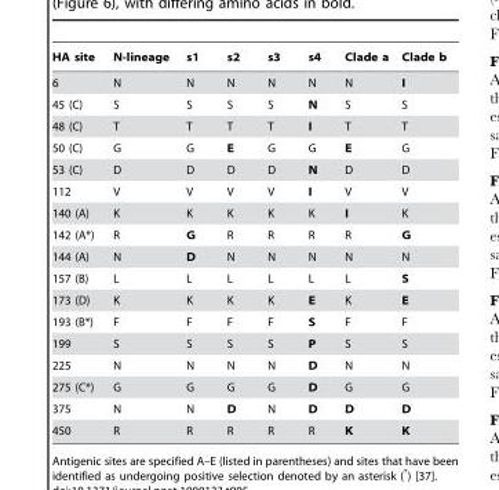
<table><thead><tr><td>HA site</td><td>N-lineage</td><td>s1</td><td>s2</td><td>s3</td><td>s4</td><td>Clade a</td><td>Clade b</td></tr></thead><tbody><tr><td>6</td><td>N</td><td>N</td><td>N</td><td>N</td><td>N</td><td>N</td><td>I</td></tr><tr><td>45 (C)</td><td>S</td><td>S</td><td>S</td><td>S</td><td>N</td><td>S</td><td>S</td></tr><tr><td>48 (C)</td><td>T</td><td>T</td><td>T</td><td>T</td><td>I</td><td>T</td><td>T</td></tr><tr><td>50 (C)</td><td>G</td><td>G</td><td>E</td><td>G</td><td>G</td><td>E</td><td>G</td></tr><tr><td>53 (C)</td><td>D</td><td>D</td><td>D</td><td>D</td><td>N</td><td>D</td><td>D</td></tr><tr><td>112</td><td>V</td><td>V</td><td>V</td><td>V</td><td>I</td><td>V</td><td>V</td></tr><tr><td>140 (A)</td><td>K</td><td>K</td><td>K</td><td>K</td><td>K</td><td>I</td><td>K</td></tr><tr><td>142 (A*)</td><td>R</td><td>G</td><td>R</td><td>R</td><td>R</td><td>R</td><td>G</td></tr><tr><td>144 (A)</td><td>N</td><td>D</td><td>N</td><td>N</td><td>N</td><td>N</td><td>N</td></tr><tr><td>157 (B)</td><td>L</td><td>L</td><td>L</td><td>L</td><td>L</td><td>L</td><td>S</td></tr><tr><td>173 (D)</td><td>K</td><td>K</td><td>K</td><td>K</td><td>E</td><td>K</td><td>E</td></tr><tr><td>193 (B*)</td><td>F</td><td>F</td><td>F</td><td>F</td><td>S</td><td>F</td><td>F</td></tr><tr><td>199</td><td>S</td><td>S</td><td>S</td><td>S</td><td>P</td><td>S</td><td>S</td></tr><tr><td>225</td><td>N</td><td>N</td><td>N</td><td>N</td><td>D</td><td>N</td><td>N</td></tr><tr><td>275 (C*)</td><td>G</td><td>G</td><td>G</td><td>G</td><td>D</td><td>G</td><td>G</td></tr><tr><td>375</td><td>N</td><td>N</td><td>D</td><td>N</td><td>D</td><td>D</td><td>D</td></tr><tr><td>450</td><td>R</td><td>R</td><td>R</td><td>R</td><td>R</td><td>K</td><td>K</td></tr></tbody></table>